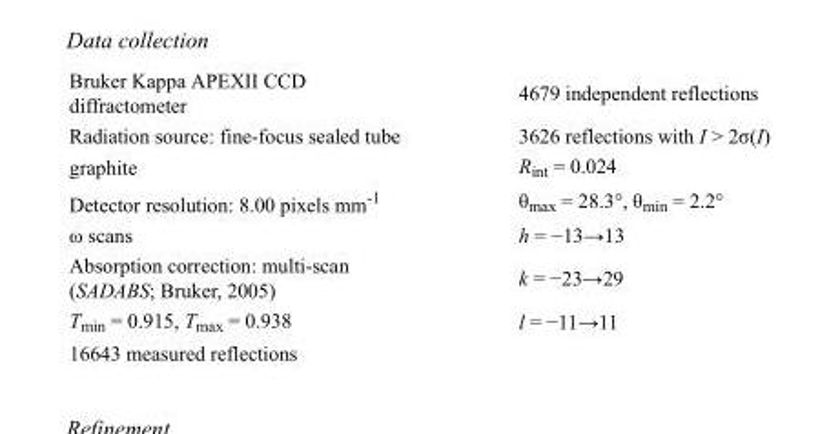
<table><tbody><tr><td>Bruker Kappa APEXII CCD diffractometer</td><td>4679 independent reflections</td></tr><tr><td>Radiation source: fine-focus sealed tube</td><td>3626 reflections with I &gt; 2σ(I)</td></tr><tr><td>graphite</td><td>R<sub>int</sub> = 0.024</td></tr><tr><td>Detector resolution: 8.00 pixels mm<sup>-1</sup></td><td>θ<sub>max</sub> = 28.3°, θ<sub>min</sub> = 2.2°</td></tr><tr><td>ω scans</td><td>h = −13→13</td></tr><tr><td>Absorption correction: multi-scan (SADABS; Bruker, 2005)</td><td>k = −23→29</td></tr><tr><td>T<sub>min</sub> = 0.915, T<sub>max</sub> = 0.938</td><td>l = −11→11</td></tr><tr><td>16643 measured reflections</td><td></td></tr></tbody></table>